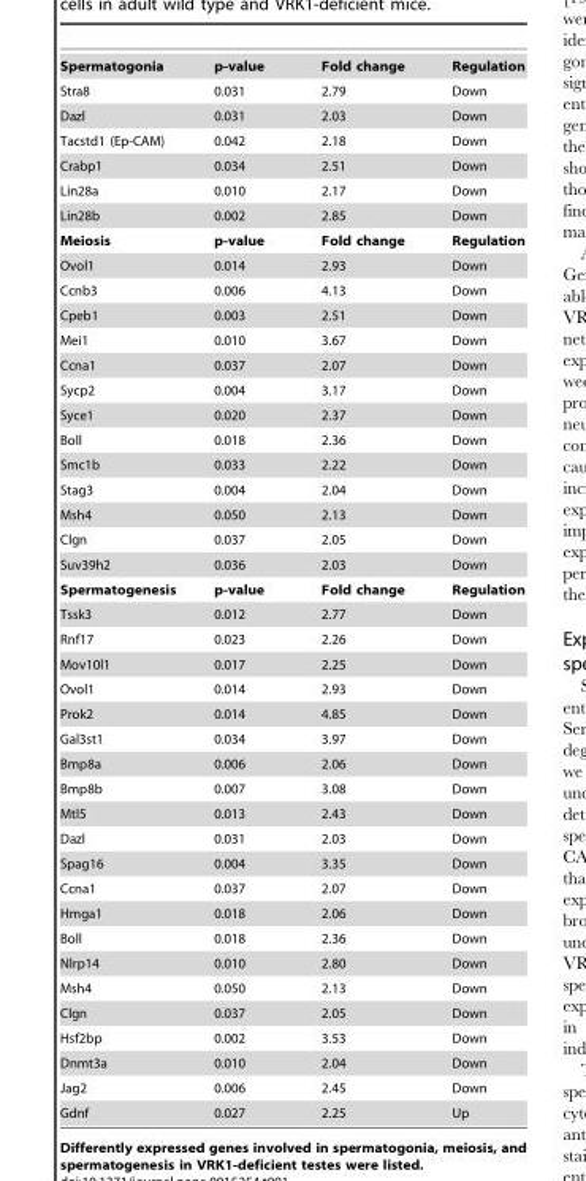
<table><tbody><tr><td>Spermatogonia</td><td>p-value</td><td>Fold change</td><td>Regulation</td></tr><tr><td>Stra8</td><td>0.031</td><td>2.79</td><td>Down</td></tr><tr><td>Dazl</td><td>0.031</td><td>2.03</td><td>Down</td></tr><tr><td>Tacstd1 (Ep-CAM)</td><td>0.042</td><td>2.18</td><td>Down</td></tr><tr><td>Crabp1</td><td>0.034</td><td>2.51</td><td>Down</td></tr><tr><td>Lin28a</td><td>0.010</td><td>2.17</td><td>Down</td></tr><tr><td>Lin28b</td><td>0.002</td><td>2.85</td><td>Down</td></tr><tr><td>Meiosis</td><td>p-value</td><td>Fold change</td><td>Regulation</td></tr><tr><td>Ovol1</td><td>0.014</td><td>2.93</td><td>Down</td></tr><tr><td>Ccnb3</td><td>0.006</td><td>4.13</td><td>Down</td></tr><tr><td>Cpeb1</td><td>0.003</td><td>2.51</td><td>Down</td></tr><tr><td>Mei1</td><td>0.010</td><td>3.67</td><td>Down</td></tr><tr><td>Ccna1</td><td>0.037</td><td>2.07</td><td>Down</td></tr><tr><td>Sycp2</td><td>0.004</td><td>3.17</td><td>Down</td></tr><tr><td>Syce1</td><td>0.020</td><td>2.37</td><td>Down</td></tr><tr><td>Boll</td><td>0.018</td><td>2.36</td><td>Down</td></tr><tr><td>Smc1b</td><td>0.033</td><td>2.22</td><td>Down</td></tr><tr><td>Stag3</td><td>0.004</td><td>2.04</td><td>Down</td></tr><tr><td>Msh4</td><td>0.050</td><td>2.13</td><td>Down</td></tr><tr><td>Clgn</td><td>0.037</td><td>2.05</td><td>Down</td></tr><tr><td>Suv39h2</td><td>0.036</td><td>2.03</td><td>Down</td></tr><tr><td>Spermatogenesis</td><td>p-value</td><td>Fold change</td><td>Regulation</td></tr><tr><td>Tssk3</td><td>0.012</td><td>2.77</td><td>Down</td></tr><tr><td>Rnf17</td><td>0.023</td><td>2.26</td><td>Down</td></tr><tr><td>Mov10l1</td><td>0.017</td><td>2.25</td><td>Down</td></tr><tr><td>Ovol1</td><td>0.014</td><td>2.93</td><td>Down</td></tr><tr><td>Prok2</td><td>0.014</td><td>4.85</td><td>Down</td></tr><tr><td>Gal3st1</td><td>0.034</td><td>3.97</td><td>Down</td></tr><tr><td>Bmp8a</td><td>0.006</td><td>2.06</td><td>Down</td></tr><tr><td>Bmp8b</td><td>0.007</td><td>3.08</td><td>Down</td></tr><tr><td>Mtl5</td><td>0.013</td><td>2.43</td><td>Down</td></tr><tr><td>Dazl</td><td>0.031</td><td>2.03</td><td>Down</td></tr><tr><td>Spag16</td><td>0.004</td><td>3.35</td><td>Down</td></tr><tr><td>Ccna1</td><td>0.037</td><td>2.07</td><td>Down</td></tr><tr><td>Hmga1</td><td>0.018</td><td>2.06</td><td>Down</td></tr><tr><td>Boll</td><td>0.018</td><td>2.36</td><td>Down</td></tr><tr><td>Nlrp14</td><td>0.010</td><td>2.80</td><td>Down</td></tr><tr><td>Msh4</td><td>0.050</td><td>2.13</td><td>Down</td></tr><tr><td>Clgn</td><td>0.037</td><td>2.05</td><td>Down</td></tr><tr><td>Hsf2bp</td><td>0.002</td><td>3.53</td><td>Down</td></tr><tr><td>Dnmt3a</td><td>0.010</td><td>2.04</td><td>Down</td></tr><tr><td>Jag2</td><td>0.006</td><td>2.45</td><td>Down</td></tr><tr><td>Gdnf</td><td>0.027</td><td>2.25</td><td>Up</td></tr></tbody></table>